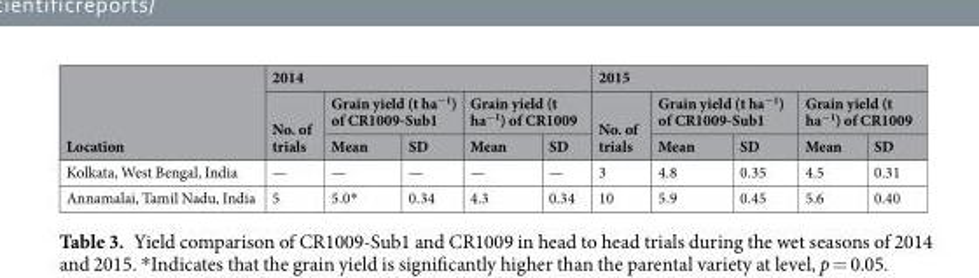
<table><thead><tr><td rowspan="3">Location</td><td colspan="5">2014</td><td colspan="5">2015</td></tr><tr><td rowspan="2">No. of trials</td><td colspan="2">Grain yield (t ha<sup>−1</sup>) of CR1009-Sub1</td><td colspan="2">Grain yield (t ha<sup>−1</sup>) of CR1009</td><td rowspan="2">No. of trials</td><td colspan="2">Grain yield (t ha<sup>−1</sup>) of CR1009-Sub1</td><td colspan="2">Grain yield (t ha<sup>−1</sup>) of CR1009</td></tr><tr><td>Mean</td><td>SD</td><td>Mean</td><td>SD</td><td>Mean</td><td>SD</td><td>Mean</td><td>SD</td></tr></thead><tbody><tr><td>Kolkata, West Bengal, India</td><td>—</td><td>—</td><td>—</td><td>—</td><td>—</td><td>3</td><td>4.8</td><td>0.35</td><td>4.5</td><td>0.31</td></tr><tr><td>Annamalai, Tamil Nadu, India</td><td>5</td><td>5.0*</td><td>0.34</td><td>4.3</td><td>0.34</td><td>10</td><td>5.9</td><td>0.45</td><td>5.6</td><td>0.40</td></tr></tbody></table>